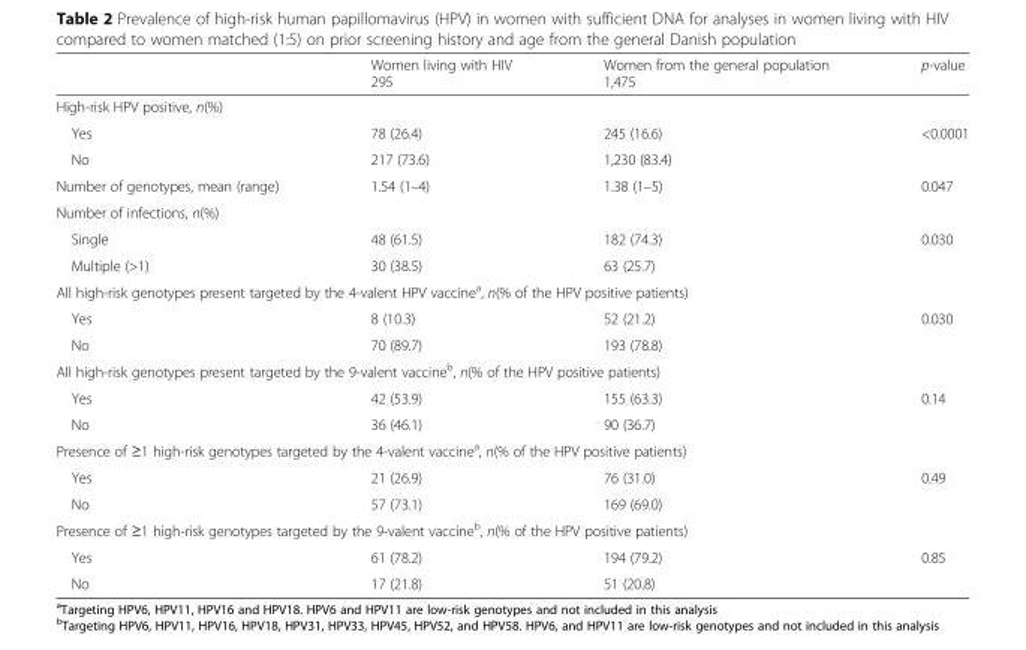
<table><thead><tr><td></td><td>Women living with HIV 295</td><td>Women from the general population 1,475</td><td>p-value</td></tr></thead><tbody><tr><td colspan="4">High-risk HPV positive, n(%)</td></tr><tr><td>Yes</td><td>78 (26.4)</td><td>245 (16.6)</td><td rowspan="2">&lt;0.0001</td></tr><tr><td>No</td><td>217 (73.6)</td><td>1,230 (83.4)</td></tr><tr><td>Number of genotypes, mean (range)</td><td>1.54 (1–4)</td><td>1.38 (1–5)</td><td>0.047</td></tr><tr><td colspan="4">Number of infections, n(%)</td></tr><tr><td>Single</td><td>48 (61.5)</td><td>182 (74.3)</td><td rowspan="2">0.030</td></tr><tr><td>Multiple (&gt;1)</td><td>30 (38.5)</td><td>63 (25.7)</td></tr><tr><td colspan="4">All high-risk genotypes present targeted by the 4-valent HPV vaccine<sup>a</sup>, n(% of the HPV positive patients)</td></tr><tr><td>Yes</td><td>8 (10.3)</td><td>52 (21.2)</td><td rowspan="2">0.030</td></tr><tr><td>No</td><td>70 (89.7)</td><td>193 (78.8)</td></tr><tr><td colspan="4">All high-risk genotypes present targeted by the 9-valent vaccine<sup>b</sup>, n(% of the HPV positive patients)</td></tr><tr><td>Yes</td><td>42 (53.9)</td><td>155 (63.3)</td><td rowspan="2">0.14</td></tr><tr><td>No</td><td>36 (46.1)</td><td>90 (36.7)</td></tr><tr><td colspan="4">Presence of ≥1 high-risk genotypes targeted by the 4-valent vaccine<sup>a</sup>, n(% of the HPV positive patients)</td></tr><tr><td>Yes</td><td>21 (26.9)</td><td>76 (31.0)</td><td rowspan="2">0.49</td></tr><tr><td>No</td><td>57 (73.1)</td><td>169 (69.0)</td></tr><tr><td colspan="4">Presence of ≥1 high-risk genotypes targeted by the 9-valent vaccine<sup>b</sup>, n(% of the HPV positive patients)</td></tr><tr><td>Yes</td><td>61 (78.2)</td><td>194 (79.2)</td><td rowspan="2">0.85</td></tr><tr><td>No</td><td>17 (21.8)</td><td>51 (20.8)</td></tr></tbody></table>